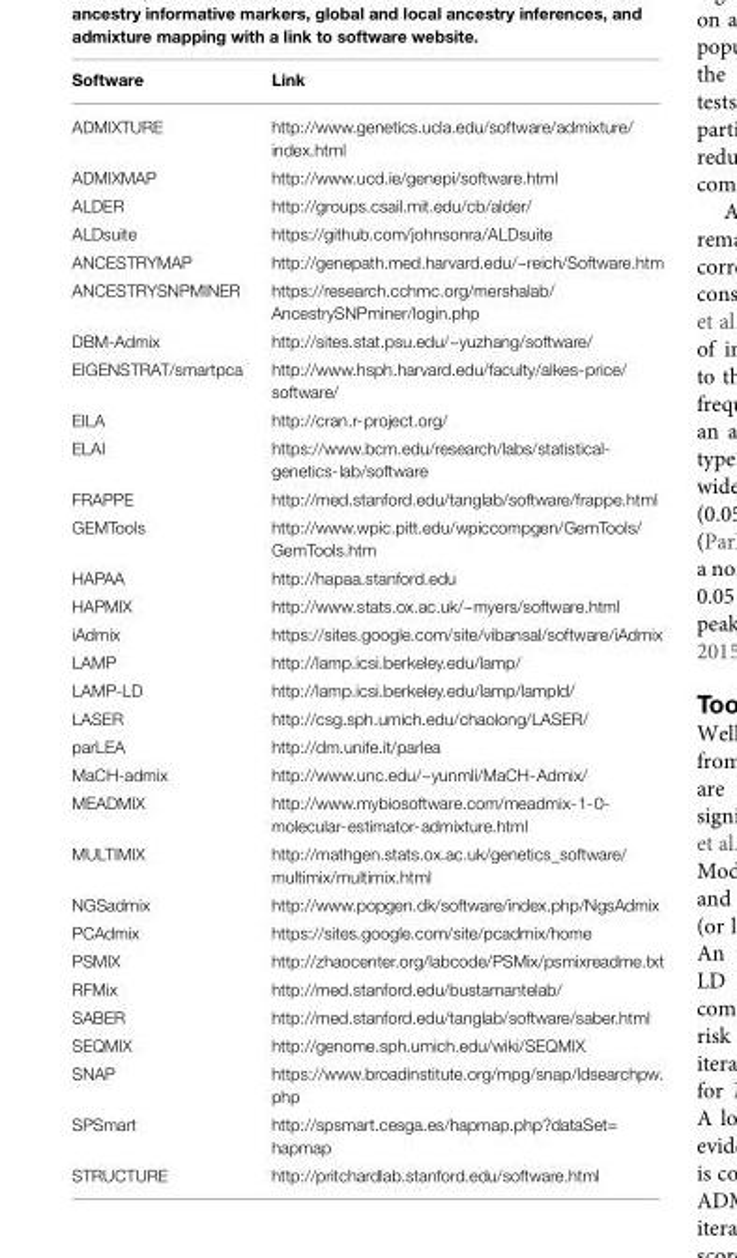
<table><thead><tr><td>Software</td><td>Link</td></tr></thead><tbody><tr><td>ADMIXTURE</td><td>http://www.genetics.ucla.edu/software/admixture/ index.html</td></tr><tr><td>ADMIXMAP</td><td>http://www.ucd.ie/genepi/software.html</td></tr><tr><td>ALDER</td><td>http://groups.csail.mit.edu/cb/alder/</td></tr><tr><td>ALDsuite</td><td>https://github.com/johnsonra/ALDsuite</td></tr><tr><td>ANCESTRYMAP</td><td>http://genepath.med.harvard.edu/~reich/Software.htm</td></tr><tr><td>ANCESTRYSNPMINER</td><td>https://research.cchmc.org/mershalab/ AncestrySNPminer/login.php</td></tr><tr><td>DBM-Admix</td><td>http://sites.stat.psu.edu/~yuzhang/software/</td></tr><tr><td>EIGENSTRAT/smartpca</td><td>http://www.hsph.harvard.edu/faculty/alkes-price/ software/</td></tr><tr><td>EILA</td><td>http://cran.r-project.org/</td></tr><tr><td>ELAI</td><td>https://www.bcm.edu/research/labs/statistical- genetics-lab/software</td></tr><tr><td>FRAPPE</td><td>http://med.stanford.edu/tanglab/software/frappe.html</td></tr><tr><td>GEMTools</td><td>http://www.wpic.pitt.edu/wpiccompgen/GemTools/ GemTools.htm</td></tr><tr><td>HAPAA</td><td>http://hapaa.stanford.edu</td></tr><tr><td>HAPMIX</td><td>http://www.stats.ox.ac.uk/~myers/software.html</td></tr><tr><td>iAdmix</td><td>https://sites.google.com/site/vibansal/software/iAdmix</td></tr><tr><td>LAMP</td><td>http://lamp.icsi.berkeley.edu/lamp/</td></tr><tr><td>LAMP-LD</td><td>http://lamp.icsi.berkeley.edu/lamp/lampld/</td></tr><tr><td>LASER</td><td>http://csg.sph.umich.edu/chaolong/LASER/</td></tr><tr><td>parLEA</td><td>http://dm.unife.it/parlea</td></tr><tr><td>MaCH-admix</td><td>http://www.unc.edu/~yunmli/MaCH-Admix/</td></tr><tr><td>MEADMIX</td><td>http://www.mybiosoftware.com/meadmix-1-0- molecular-estimator-admixture.html</td></tr><tr><td>MULTIMIX</td><td>http://mathgen.stats.ox.ac.uk/genetics_software/ multimix/multimix.html</td></tr><tr><td>NGSadmix</td><td>http://www.popgen.dk/software/index.php/NgsAdmix</td></tr><tr><td>PCAdmix</td><td>https://sites.google.com/site/pcadmix/home</td></tr><tr><td>PSMIX</td><td>http://zhaocenter.org/labcode/PSMix/psmixreadme.txt</td></tr><tr><td>RFMix</td><td>http://med.stanford.edu/bustamantelab/</td></tr><tr><td>SABER</td><td>http://med.stanford.edu/tanglab/software/saber.html</td></tr><tr><td>SEQMIX</td><td>http://genome.sph.umich.edu/wiki/SEQMIX</td></tr><tr><td>SNAP</td><td>https://www.broadinstitute.org/mpg/snap/ldsearchpw. php</td></tr><tr><td>SPSmart</td><td>http://spsmart.cesga.es/hapmap.php?dataSet= hapmap</td></tr><tr><td>STRUCTURE</td><td>http://pritchardlab.stanford.edu/software.html</td></tr></tbody></table>